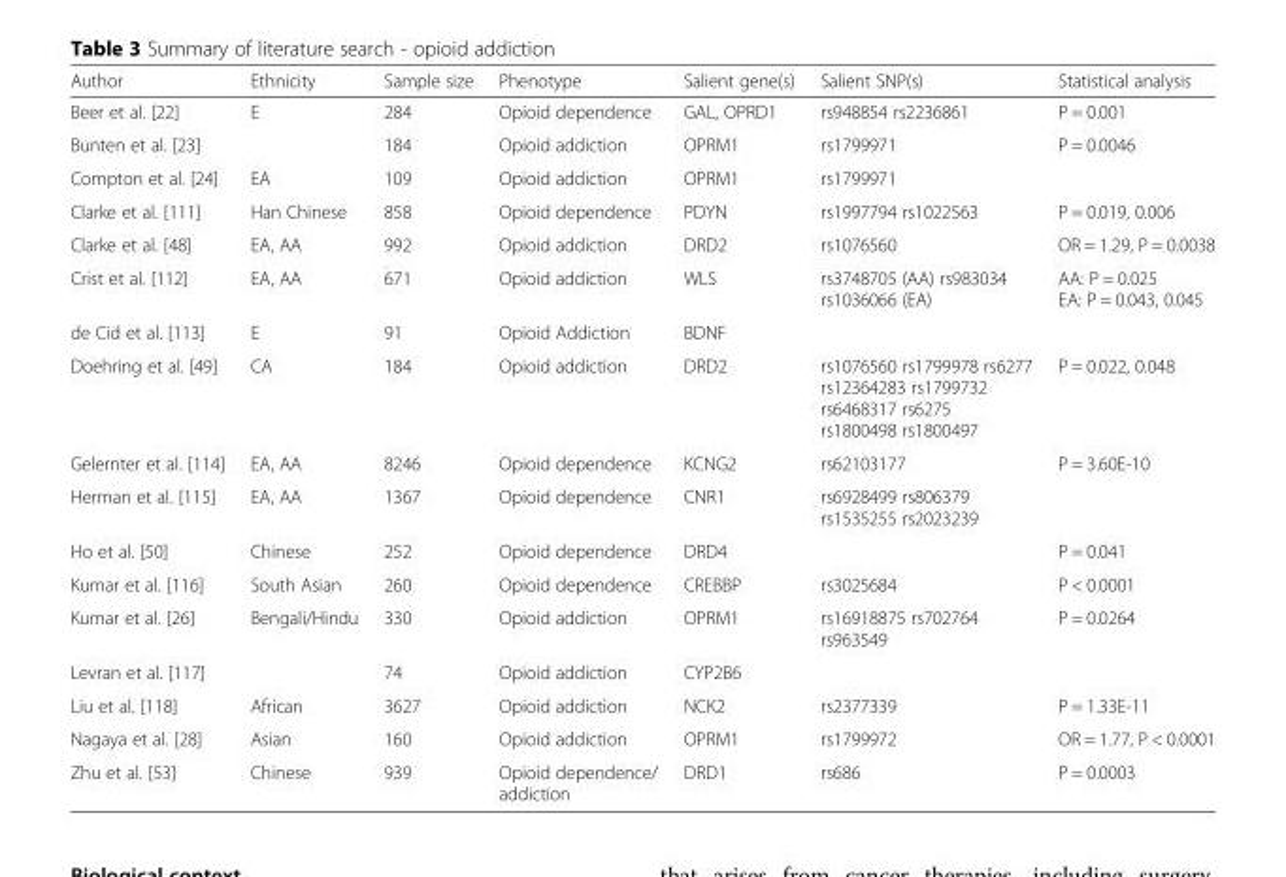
<table><thead><tr><td>Author</td><td>Ethnicity</td><td>Sample size</td><td>Phenotype</td><td>Salient gene(s)</td><td>Salient SNP(s)</td><td>Statistical analysis</td></tr></thead><tbody><tr><td>Beer et al. [22]</td><td>E</td><td>284</td><td>Opioid dependence</td><td>GAL, OPRD1</td><td>rs948854 rs2236861</td><td>P = 0.001</td></tr><tr><td>Bunten et al. [23]</td><td></td><td>184</td><td>Opioid addiction</td><td>OPRM1</td><td>rs1799971</td><td>P = 0.0046</td></tr><tr><td>Compton et al. [24]</td><td>EA</td><td>109</td><td>Opioid addiction</td><td>OPRM1</td><td>rs1799971</td><td></td></tr><tr><td>Clarke et al. [111]</td><td>Han Chinese</td><td>858</td><td>Opioid dependence</td><td>PDYN</td><td>rs1997794 rs1022563</td><td>P = 0.019, 0.006</td></tr><tr><td>Clarke et al. [48]</td><td>EA, AA</td><td>992</td><td>Opioid addiction</td><td>DRD2</td><td>rs1076560</td><td>OR = 1.29, P = 0.0038</td></tr><tr><td>Crist et al. [112]</td><td>EA, AA</td><td>671</td><td>Opioid addiction</td><td>WLS</td><td>rs3748705 (AA) rs983034 rs1036066 (EA)</td><td>AA: P = 0.025 EA: P = 0.043, 0.045</td></tr><tr><td>de Cid et al. [113]</td><td>E</td><td>91</td><td>Opioid Addiction</td><td>BDNF</td><td></td><td></td></tr><tr><td>Doehring et al. [49]</td><td>CA</td><td>184</td><td>Opioid addiction</td><td>DRD2</td><td>rs1076560 rs1799978 rs6277 rs12364283 rs1799732 rs6468317 rs6275 rs1800498 rs1800497</td><td>P = 0.022, 0.048</td></tr><tr><td>Gelernter et al. [114]</td><td>EA, AA</td><td>8246</td><td>Opioid dependence</td><td>KCNG2</td><td>rs62103177</td><td>P = 3.60E-10</td></tr><tr><td>Herman et al. [115]</td><td>EA, AA</td><td>1367</td><td>Opioid dependence</td><td>CNR1</td><td>rs6928499 rs806379 rs1535255 rs2023239</td><td></td></tr><tr><td>Ho et al. [50]</td><td>Chinese</td><td>252</td><td>Opioid dependence</td><td>DRD4</td><td></td><td>P = 0.041</td></tr><tr><td>Kumar et al. [116]</td><td>South Asian</td><td>260</td><td>Opioid dependence</td><td>CREBBP</td><td>rs3025684</td><td>P &lt; 0.0001</td></tr><tr><td>Kumar et al. [26]</td><td>Bengali/Hindu</td><td>330</td><td>Opioid addiction</td><td>OPRM1</td><td>rs16918875 rs702764 rs963549</td><td>P = 0.0264</td></tr><tr><td>Levran et al. [117]</td><td></td><td>74</td><td>Opioid addiction</td><td>CYP2B6</td><td></td><td></td></tr><tr><td>Liu et al. [118]</td><td>African</td><td>3627</td><td>Opioid addiction</td><td>NCK2</td><td>rs2377339</td><td>P = 1.33E-11</td></tr><tr><td>Nagaya et al. [28]</td><td>Asian</td><td>160</td><td>Opioid addiction</td><td>OPRM1</td><td>rs1799972</td><td>OR = 1.77, P &lt; 0.0001</td></tr><tr><td>Zhu et al. [53]</td><td>Chinese</td><td>939</td><td>Opioid dependence/ addiction</td><td>DRD1</td><td>rs686</td><td>P = 0.0003</td></tr></tbody></table>